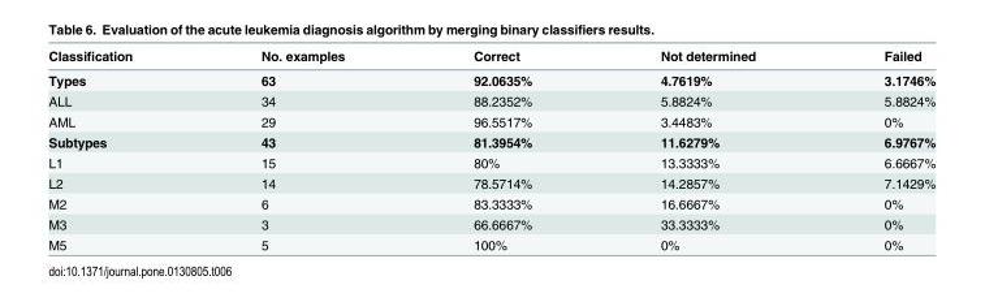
<table><thead><tr><td>Classification</td><td>No. examples</td><td>Correct</td><td>Not determined</td><td>Failed</td></tr></thead><tbody><tr><td>Types</td><td>63</td><td>92.0635%</td><td>4.7619%</td><td>3.1746%</td></tr><tr><td>ALL</td><td>34</td><td>88.2352%</td><td>5.8824%</td><td>5.8824%</td></tr><tr><td>AML</td><td>29</td><td>96.5517%</td><td>3.4483%</td><td>0%</td></tr><tr><td>Subtypes</td><td>43</td><td>81.3954%</td><td>11.6279%</td><td>6.9767%</td></tr><tr><td>L1</td><td>15</td><td>80%</td><td>13.3333%</td><td>6.6667%</td></tr><tr><td>L2</td><td>14</td><td>78.5714%</td><td>14.2857%</td><td>7.1429%</td></tr><tr><td>M2</td><td>6</td><td>83.3333%</td><td>16.6667%</td><td>0%</td></tr><tr><td>M3</td><td>3</td><td>66.6667%</td><td>33.3333%</td><td>0%</td></tr><tr><td>M5</td><td>5</td><td>100%</td><td>0%</td><td>0%</td></tr></tbody></table>